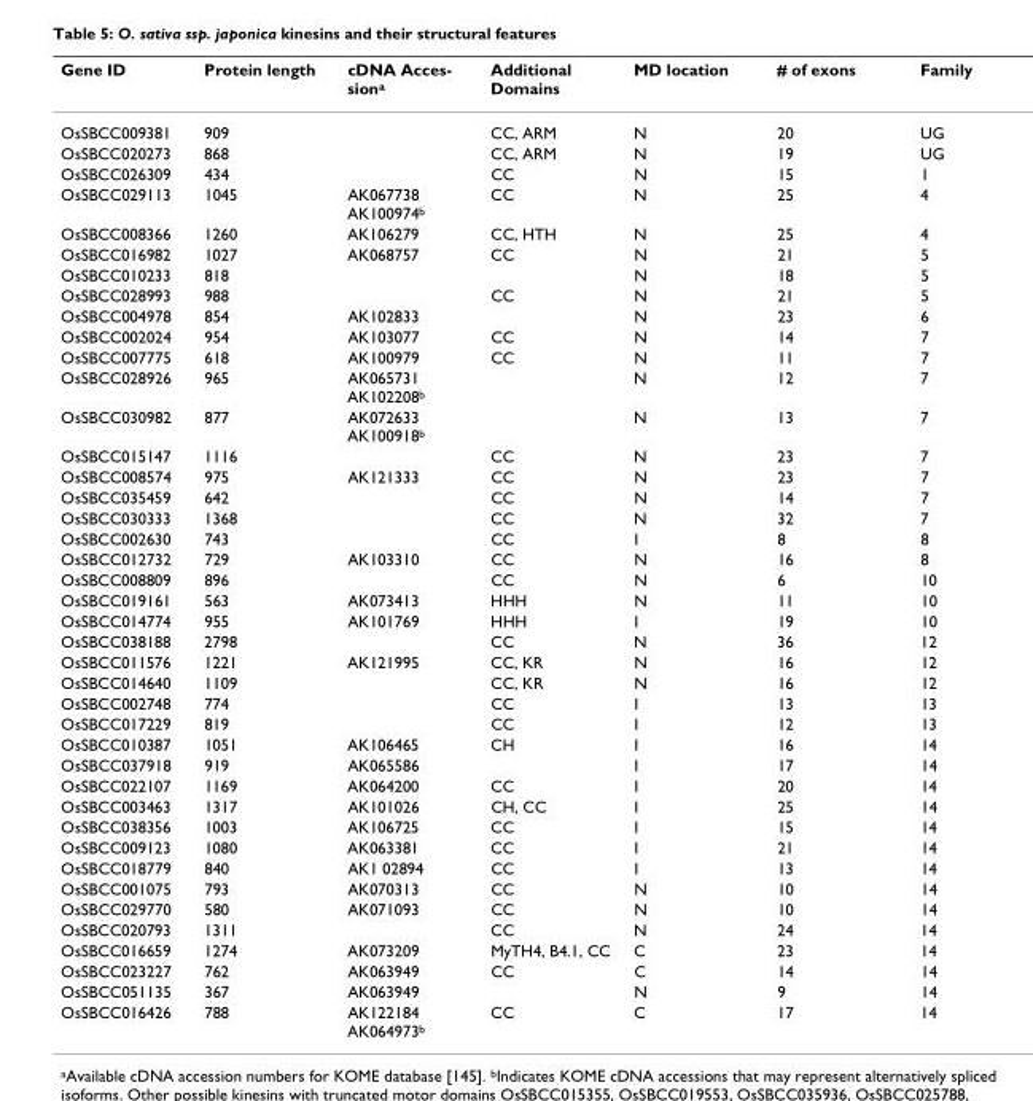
<table><thead><tr><td>Gene ID</td><td>Protein length</td><td>cDNA Acces- siona</td><td>Additional Domains</td><td>MD location</td><td># of exons</td><td>Family</td></tr></thead><tbody><tr><td>OsSBCC009381</td><td>909</td><td></td><td>CC, ARM</td><td>N</td><td>20</td><td>UG</td></tr><tr><td>OsSBCC020273</td><td>868</td><td></td><td>CC, ARM</td><td>N</td><td>19</td><td>UG</td></tr><tr><td>OsSBCC026309</td><td>434</td><td></td><td>CC</td><td>N</td><td>15</td><td>1</td></tr><tr><td>OsSBCC029113</td><td>1045</td><td>AK067738 AK100974b</td><td>CC</td><td>N</td><td>25</td><td>4</td></tr><tr><td>OsSBCC008366</td><td>1260</td><td>AK106279</td><td>CC, HTH</td><td>N</td><td>25</td><td>4</td></tr><tr><td>OsSBCC016982</td><td>1027</td><td>AK068757</td><td>CC</td><td>N</td><td>21</td><td>5</td></tr><tr><td>OsSBCC010233</td><td>818</td><td></td><td></td><td>N</td><td>18</td><td>5</td></tr><tr><td>OsSBCC028993</td><td>988</td><td></td><td>CC</td><td>N</td><td>21</td><td>5</td></tr><tr><td>OsSBCC004978</td><td>854</td><td>AK102833</td><td></td><td>N</td><td>23</td><td>6</td></tr><tr><td>OsSBCC002024</td><td>954</td><td>AK103077</td><td>CC</td><td>N</td><td>14</td><td>7</td></tr><tr><td>OsSBCC007775</td><td>618</td><td>AK100979</td><td>CC</td><td>N</td><td>11</td><td>7</td></tr><tr><td>OsSBCC028926</td><td>965</td><td>AK065731 AK102208b</td><td></td><td>N</td><td>12</td><td>7</td></tr><tr><td>OsSBCC030982</td><td>877</td><td>AK072633 AK100918b</td><td></td><td>N</td><td>13</td><td>7</td></tr><tr><td>OsSBCC015147</td><td>1116</td><td></td><td>CC</td><td>N</td><td>23</td><td>7</td></tr><tr><td>OsSBCC008574</td><td>975</td><td>AK121333</td><td>CC</td><td>N</td><td>23</td><td>7</td></tr><tr><td>OsSBCC035459</td><td>642</td><td></td><td>CC</td><td>N</td><td>14</td><td>7</td></tr><tr><td>OsSBCC030333</td><td>1368</td><td></td><td>CC</td><td>N</td><td>32</td><td>7</td></tr><tr><td>OsSBCC002630</td><td>743</td><td></td><td>CC</td><td>I</td><td>8</td><td>8</td></tr><tr><td>OsSBCC012732</td><td>729</td><td>AK103310</td><td>CC</td><td>N</td><td>16</td><td>8</td></tr><tr><td>OsSBCC008809</td><td>896</td><td></td><td>CC</td><td>N</td><td>6</td><td>10</td></tr><tr><td>OsSBCC019161</td><td>563</td><td>AK073413</td><td>HHH</td><td>N</td><td>11</td><td>10</td></tr><tr><td>OsSBCC014774</td><td>955</td><td>AK101769</td><td>HHH</td><td>I</td><td>19</td><td>10</td></tr><tr><td>OsSBCC038188</td><td>2798</td><td></td><td>CC</td><td>N</td><td>36</td><td>12</td></tr><tr><td>OsSBCC011576</td><td>1221</td><td>AK121995</td><td>CC, KR</td><td>N</td><td>16</td><td>12</td></tr><tr><td>OsSBCC014640</td><td>1109</td><td></td><td>CC, KR</td><td>N</td><td>16</td><td>12</td></tr><tr><td>OsSBCC002748</td><td>774</td><td></td><td>CC</td><td>I</td><td>13</td><td>13</td></tr><tr><td>OsSBCC017229</td><td>819</td><td></td><td>CC</td><td>I</td><td>12</td><td>13</td></tr><tr><td>OsSBCC010387</td><td>1051</td><td>AK106465</td><td>CH</td><td>I</td><td>16</td><td>14</td></tr><tr><td>OsSBCC037918</td><td>919</td><td>AK065586</td><td></td><td>I</td><td>17</td><td>14</td></tr><tr><td>OsSBCC022107</td><td>1169</td><td>AK064200</td><td>CC</td><td>I</td><td>20</td><td>14</td></tr><tr><td>OsSBCC003463</td><td>1317</td><td>AK101026</td><td>CH, CC</td><td>I</td><td>25</td><td>14</td></tr><tr><td>OsSBCC038356</td><td>1003</td><td>AK106725</td><td>CC</td><td>I</td><td>15</td><td>14</td></tr><tr><td>OsSBCC009123</td><td>1080</td><td>AK063381</td><td>CC</td><td>I</td><td>21</td><td>14</td></tr><tr><td>OsSBCC018779</td><td>840</td><td>AK1 02894</td><td>CC</td><td>I</td><td>13</td><td>14</td></tr><tr><td>OsSBCC001075</td><td>793</td><td>AK070313</td><td>CC</td><td>N</td><td>10</td><td>14</td></tr><tr><td>OsSBCC029770</td><td>580</td><td>AK071093</td><td>CC</td><td>N</td><td>10</td><td>14</td></tr><tr><td>OsSBCC020793</td><td>1311</td><td></td><td>CC</td><td>N</td><td>24</td><td>14</td></tr><tr><td>OsSBCC016659</td><td>1274</td><td>AK073209</td><td>MyTH4, B4.1, CC</td><td>C</td><td>23</td><td>14</td></tr><tr><td>OsSBCC023227</td><td>762</td><td>AK063949</td><td>CC</td><td>C</td><td>14</td><td>14</td></tr><tr><td>OsSBCC051135</td><td>367</td><td>AK063949</td><td></td><td>N</td><td>9</td><td>14</td></tr><tr><td>OsSBCC016426</td><td>788</td><td>AK122184 AK064973b</td><td>CC</td><td>C</td><td>17</td><td>14</td></tr></tbody></table>